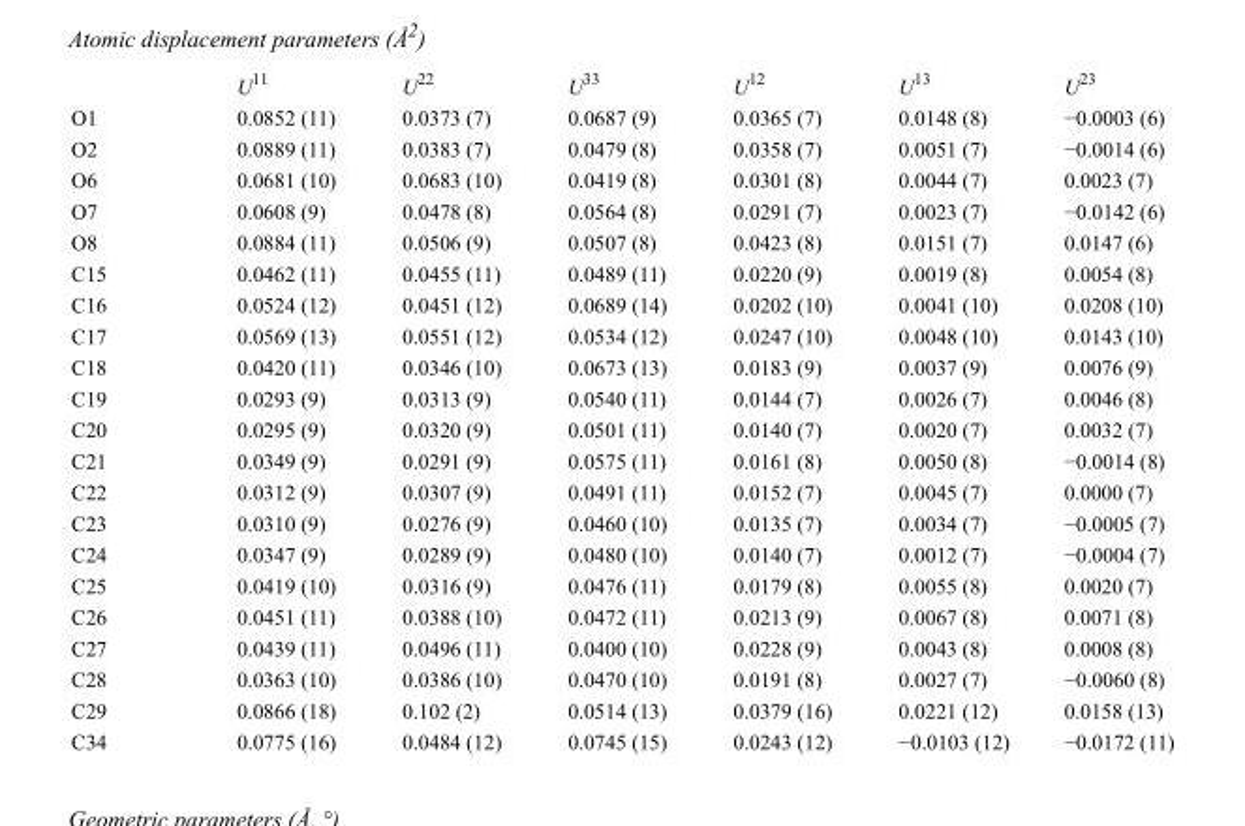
<table><thead><tr><td></td><td>U<sup>11</sup></td><td>U<sup>22</sup></td><td>U<sup>33</sup></td><td>U<sup>12</sup></td><td>U<sup>13</sup></td><td>U<sup>23</sup></td></tr></thead><tbody><tr><td>O1</td><td>0.0852 (11)</td><td>0.0373 (7)</td><td>0.0687 (9)</td><td>0.0365 (7)</td><td>0.0148 (8)</td><td>−0.0003 (6)</td></tr><tr><td>O2</td><td>0.0889 (11)</td><td>0.0383 (7)</td><td>0.0479 (8)</td><td>0.0358 (7)</td><td>0.0051 (7)</td><td>−0.0014 (6)</td></tr><tr><td>O6</td><td>0.0681 (10)</td><td>0.0683 (10)</td><td>0.0419 (8)</td><td>0.0301 (8)</td><td>0.0044 (7)</td><td>0.0023 (7)</td></tr><tr><td>O7</td><td>0.0608 (9)</td><td>0.0478 (8)</td><td>0.0564 (8)</td><td>0.0291 (7)</td><td>0.0023 (7)</td><td>−0.0142 (6)</td></tr><tr><td>O8</td><td>0.0884 (11)</td><td>0.0506 (9)</td><td>0.0507 (8)</td><td>0.0423 (8)</td><td>0.0151 (7)</td><td>0.0147 (6)</td></tr><tr><td>C15</td><td>0.0462 (11)</td><td>0.0455 (11)</td><td>0.0489 (11)</td><td>0.0220 (9)</td><td>0.0019 (8)</td><td>0.0054 (8)</td></tr><tr><td>C16</td><td>0.0524 (12)</td><td>0.0451 (12)</td><td>0.0689 (14)</td><td>0.0202 (10)</td><td>0.0041 (10)</td><td>0.0208 (10)</td></tr><tr><td>C17</td><td>0.0569 (13)</td><td>0.0551 (12)</td><td>0.0534 (12)</td><td>0.0247 (10)</td><td>0.0048 (10)</td><td>0.0143 (10)</td></tr><tr><td>C18</td><td>0.0420 (11)</td><td>0.0346 (10)</td><td>0.0673 (13)</td><td>0.0183 (9)</td><td>0.0037 (9)</td><td>0.0076 (9)</td></tr><tr><td>C19</td><td>0.0293 (9)</td><td>0.0313 (9)</td><td>0.0540 (11)</td><td>0.0144 (7)</td><td>0.0026 (7)</td><td>0.0046 (8)</td></tr><tr><td>C20</td><td>0.0295 (9)</td><td>0.0320 (9)</td><td>0.0501 (11)</td><td>0.0140 (7)</td><td>0.0020 (7)</td><td>0.0032 (7)</td></tr><tr><td>C21</td><td>0.0349 (9)</td><td>0.0291 (9)</td><td>0.0575 (11)</td><td>0.0161 (8)</td><td>0.0050 (8)</td><td>−0.0014 (8)</td></tr><tr><td>C22</td><td>0.0312 (9)</td><td>0.0307 (9)</td><td>0.0491 (11)</td><td>0.0152 (7)</td><td>0.0045 (7)</td><td>0.0000 (7)</td></tr><tr><td>C23</td><td>0.0310 (9)</td><td>0.0276 (9)</td><td>0.0460 (10)</td><td>0.0135 (7)</td><td>0.0034 (7)</td><td>−0.0005 (7)</td></tr><tr><td>C24</td><td>0.0347 (9)</td><td>0.0289 (9)</td><td>0.0480 (10)</td><td>0.0140 (7)</td><td>0.0012 (7)</td><td>−0.0004 (7)</td></tr><tr><td>C25</td><td>0.0419 (10)</td><td>0.0316 (9)</td><td>0.0476 (11)</td><td>0.0179 (8)</td><td>0.0055 (8)</td><td>0.0020 (7)</td></tr><tr><td>C26</td><td>0.0451 (11)</td><td>0.0388 (10)</td><td>0.0472 (11)</td><td>0.0213 (9)</td><td>0.0067 (8)</td><td>0.0071 (8)</td></tr><tr><td>C27</td><td>0.0439 (11)</td><td>0.0496 (11)</td><td>0.0400 (10)</td><td>0.0228 (9)</td><td>0.0043 (8)</td><td>0.0008 (8)</td></tr><tr><td>C28</td><td>0.0363 (10)</td><td>0.0386 (10)</td><td>0.0470 (10)</td><td>0.0191 (8)</td><td>0.0027 (7)</td><td>−0.0060 (8)</td></tr><tr><td>C29</td><td>0.0866 (18)</td><td>0.102 (2)</td><td>0.0514 (13)</td><td>0.0379 (16)</td><td>0.0221 (12)</td><td>0.0158 (13)</td></tr><tr><td>C34</td><td>0.0775 (16)</td><td>0.0484 (12)</td><td>0.0745 (15)</td><td>0.0243 (12)</td><td>−0.0103 (12)</td><td>−0.0172 (11)</td></tr></tbody></table>